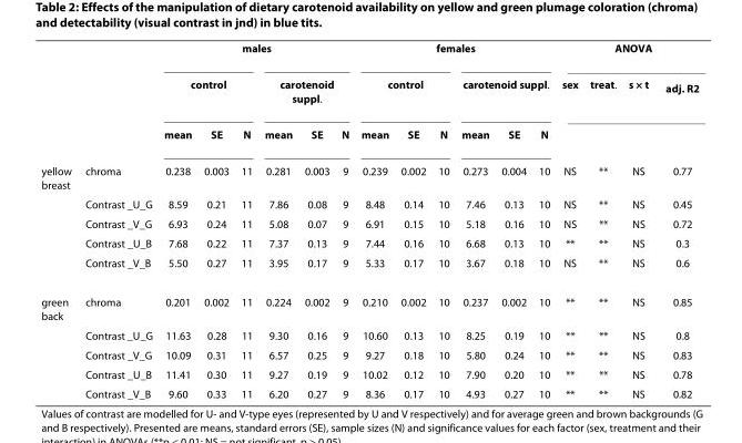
<table><thead><tr><td rowspan="3"></td><td rowspan="3"></td><td colspan="6">males</td><td colspan="6">females</td><td colspan="4">ANOVA</td></tr><tr><td colspan="3">control</td><td colspan="3">carotenoid suppl.</td><td colspan="3">control</td><td colspan="3">carotenoid suppl.</td><td rowspan="2">sex</td><td rowspan="2">treat.</td><td rowspan="2">s × t</td><td rowspan="2">adj. R<sup>2</sup></td></tr><tr><td>mean</td><td>SE</td><td>N</td><td>mean</td><td>SE</td><td>N</td><td>mean</td><td>SE</td><td>N</td><td>mean</td><td>SE</td><td>N</td></tr></thead><tbody><tr><td rowspan="5">yellow breast</td><td>chroma</td><td>0.238</td><td>0.003</td><td>11</td><td>0.281</td><td>0.003</td><td>9</td><td>0.239</td><td>0.002</td><td>10</td><td>0.273</td><td>0.004</td><td>10</td><td>NS</td><td>**</td><td>NS</td><td>0.77</td></tr><tr><td>Contrast _U_G</td><td>8.59</td><td>0.21</td><td>11</td><td>7.86</td><td>0.08</td><td>9</td><td>8.48</td><td>0.14</td><td>10</td><td>7.46</td><td>0.13</td><td>10</td><td>NS</td><td>**</td><td>NS</td><td>0.45</td></tr><tr><td>Contrast _V_G</td><td>6.93</td><td>0.24</td><td>11</td><td>5.08</td><td>0.07</td><td>9</td><td>6.91</td><td>0.15</td><td>10</td><td>5.18</td><td>0.16</td><td>10</td><td>NS</td><td>**</td><td>NS</td><td>0.72</td></tr><tr><td>Contrast _U_B</td><td>7.68</td><td>0.22</td><td>11</td><td>7.37</td><td>0.13</td><td>9</td><td>7.44</td><td>0.16</td><td>10</td><td>6.68</td><td>0.13</td><td>10</td><td>**</td><td>**</td><td>NS</td><td>0.3</td></tr><tr><td>Contrast _V_B</td><td>5.50</td><td>0.27</td><td>11</td><td>3.95</td><td>0.17</td><td>9</td><td>5.33</td><td>0.17</td><td>10</td><td>3.67</td><td>0.18</td><td>10</td><td>NS</td><td>**</td><td>NS</td><td>0.6</td></tr><tr><td rowspan="5">green back</td><td>chroma</td><td>0.201</td><td>0.002</td><td>11</td><td>0.224</td><td>0.002</td><td>9</td><td>0.210</td><td>0.002</td><td>10</td><td>0.237</td><td>0.002</td><td>10</td><td>**</td><td>**</td><td>NS</td><td>0.85</td></tr><tr><td>Contrast _U_G</td><td>11.63</td><td>0.28</td><td>11</td><td>9.30</td><td>0.16</td><td>9</td><td>10.60</td><td>0.13</td><td>10</td><td>8.25</td><td>0.19</td><td>10</td><td>**</td><td>**</td><td>NS</td><td>0.8</td></tr><tr><td>Contrast _V_G</td><td>10.09</td><td>0.31</td><td>11</td><td>6.57</td><td>0.25</td><td>9</td><td>9.27</td><td>0.18</td><td>10</td><td>5.80</td><td>0.24</td><td>10</td><td>**</td><td>**</td><td>NS</td><td>0.83</td></tr><tr><td>Contrast _U_B</td><td>11.41</td><td>0.30</td><td>11</td><td>9.27</td><td>0.19</td><td>9</td><td>10.02</td><td>0.12</td><td>10</td><td>7.90</td><td>0.20</td><td>10</td><td>**</td><td>**</td><td>NS</td><td>0.78</td></tr><tr><td>Contrast _V_B</td><td>9.60</td><td>0.33</td><td>11</td><td>6.20</td><td>0.27</td><td>9</td><td>8.36</td><td>0.17</td><td>10</td><td>4.93</td><td>0.27</td><td>10</td><td>**</td><td>**</td><td>NS</td><td>0.82</td></tr></tbody></table>